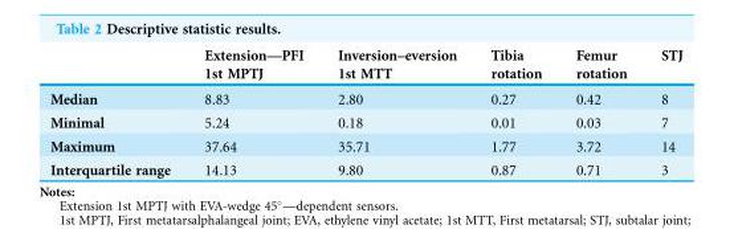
<table><thead><tr><td></td><td>Extension—PFI 1st MPTJ</td><td>Inversion–eversion 1st MTT</td><td>Tibia rotation</td><td>Femur rotation</td><td>STJ</td></tr></thead><tbody><tr><td>Median</td><td>8.83</td><td>2.80</td><td>0.27</td><td>0.42</td><td>8</td></tr><tr><td>Minimal</td><td>5.24</td><td>0.18</td><td>0.01</td><td>0.03</td><td>7</td></tr><tr><td>Maximum</td><td>37.64</td><td>35.71</td><td>1.77</td><td>3.72</td><td>14</td></tr><tr><td>Interquartile range</td><td>14.13</td><td>9.80</td><td>0.87</td><td>0.71</td><td>3</td></tr></tbody></table>